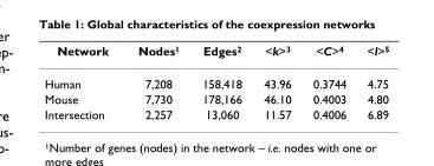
<table><thead><tr><td>Network</td><td>Nodes<sup>1</sup></td><td>Edges<sup>2</sup></td><td>&lt;k&gt;<sup>3</sup></td><td>&lt;C&gt;<sup>4</sup></td><td>&lt;l&gt;<sup>5</sup></td></tr></thead><tbody><tr><td>Human</td><td>7,208</td><td>158,418</td><td>43.96</td><td>0.3744</td><td>4.75</td></tr><tr><td>Mouse</td><td>7,730</td><td>178,166</td><td>46.10</td><td>0.4003</td><td>4.80</td></tr><tr><td>Intersection</td><td>2,257</td><td>13,060</td><td>11.57</td><td>0.4006</td><td>6.89</td></tr></tbody></table>